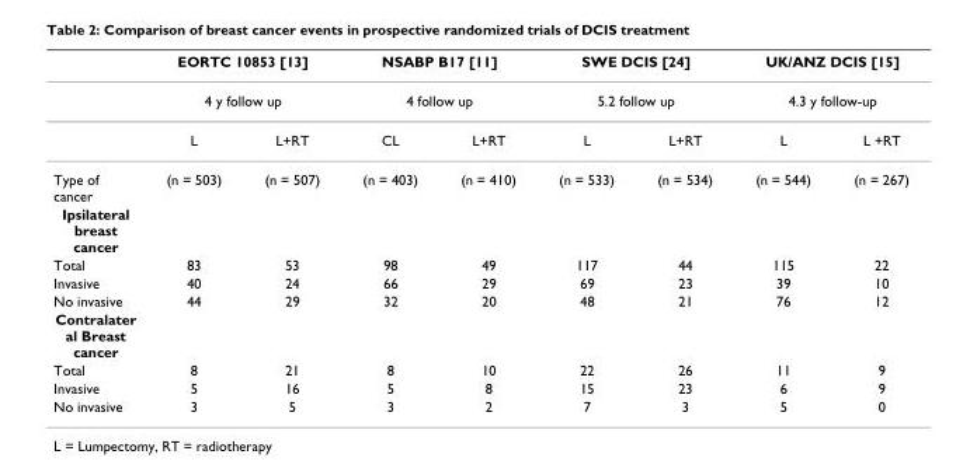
<table><thead><tr><td rowspan="3"></td><td rowspan="2" colspan="2">EORTC 10853 [13] 4 y follow up</td><td rowspan="2" colspan="2">NSABP B17 [11] 4 follow up</td><td rowspan="2" colspan="2">SWE DCIS [24] 5.2 follow up</td><td rowspan="2" colspan="2">UK/ANZ DCIS [15] 4.3 y follow-up</td></tr><tr></tr><tr><td>L</td><td>L+RT</td><td>CL</td><td>L+RT</td><td>L</td><td>L+RT</td><td>L</td><td>L +RT</td></tr></thead><tbody><tr><td>Type of cancer</td><td>(n = 503)</td><td>(n = 507)</td><td>(n = 403)</td><td>(n = 410)</td><td>(n = 533)</td><td>(n = 534)</td><td>(n = 544)</td><td>(n = 267)</td></tr><tr><td colspan="9">Ipsilateral breast cancer</td></tr><tr><td>Total</td><td>83</td><td>53</td><td>98</td><td>49</td><td>117</td><td>44</td><td>115</td><td>22</td></tr><tr><td>Invasive</td><td>40</td><td>24</td><td>66</td><td>29</td><td>69</td><td>23</td><td>39</td><td>10</td></tr><tr><td>No invasive</td><td>44</td><td>29</td><td>32</td><td>20</td><td>48</td><td>21</td><td>76</td><td>12</td></tr><tr><td colspan="9">Contralater al Breast cancer</td></tr><tr><td>Total</td><td>8</td><td>21</td><td>8</td><td>10</td><td>22</td><td>26</td><td>11</td><td>9</td></tr><tr><td>Invasive</td><td>5</td><td>16</td><td>5</td><td>8</td><td>15</td><td>23</td><td>6</td><td>9</td></tr><tr><td>No invasive</td><td>3</td><td>5</td><td>3</td><td>2</td><td>7</td><td>3</td><td>5</td><td>0</td></tr></tbody></table>